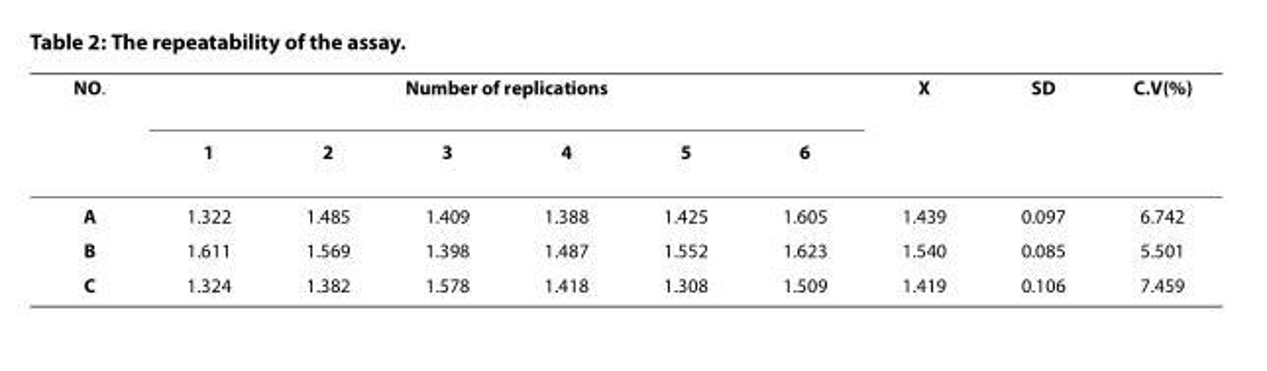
<table><thead><tr><td rowspan="2">NO.</td><td colspan="6">Number of replications</td><td rowspan="2">X</td><td rowspan="2">SD</td><td rowspan="2">C.V(%)</td></tr><tr><td>1</td><td>2</td><td>3</td><td>4</td><td>5</td><td>6</td></tr></thead><tbody><tr><td>A</td><td>1.322</td><td>1.485</td><td>1.409</td><td>1.388</td><td>1.425</td><td>1.605</td><td>1.439</td><td>0.097</td><td>6.742</td></tr><tr><td>B</td><td>1.611</td><td>1.569</td><td>1.398</td><td>1.487</td><td>1.552</td><td>1.623</td><td>1.540</td><td>0.085</td><td>5.501</td></tr><tr><td>C</td><td>1.324</td><td>1.382</td><td>1.578</td><td>1.418</td><td>1.308</td><td>1.509</td><td>1.419</td><td>0.106</td><td>7.459</td></tr></tbody></table>